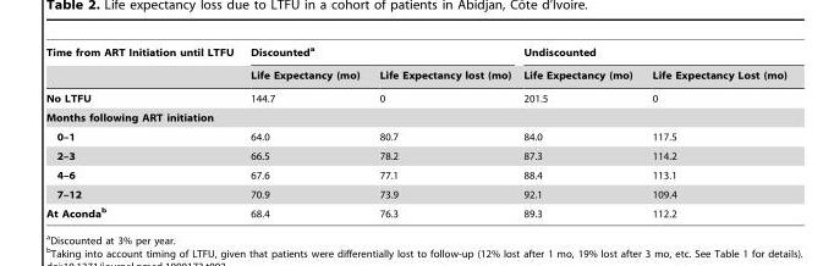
<table><thead><tr><td rowspan="2">Time from ART Initiation until LTFU</td><td colspan="2">Discounted<sup>a</sup></td><td colspan="2">Undiscounted</td></tr><tr><td>Life Expectancy (mo)</td><td>Life Expectancy lost (mo)</td><td>Life Expectancy (mo)</td><td>Life Expectancy Lost (mo)</td></tr></thead><tbody><tr><td>No LTFU</td><td>144.7</td><td>0</td><td>201.5</td><td>0</td></tr><tr><td colspan="5">Months following ART initiation</td></tr><tr><td>0–1</td><td>64.0</td><td>80.7</td><td>84.0</td><td>117.5</td></tr><tr><td>2–3</td><td>66.5</td><td>78.2</td><td>87.3</td><td>114.2</td></tr><tr><td>4–6</td><td>67.6</td><td>77.1</td><td>88.4</td><td>113.1</td></tr><tr><td>7–12</td><td>70.9</td><td>73.9</td><td>92.1</td><td>109.4</td></tr><tr><td>At Acondab</td><td>68.4</td><td>76.3</td><td>89.3</td><td>112.2</td></tr></tbody></table>